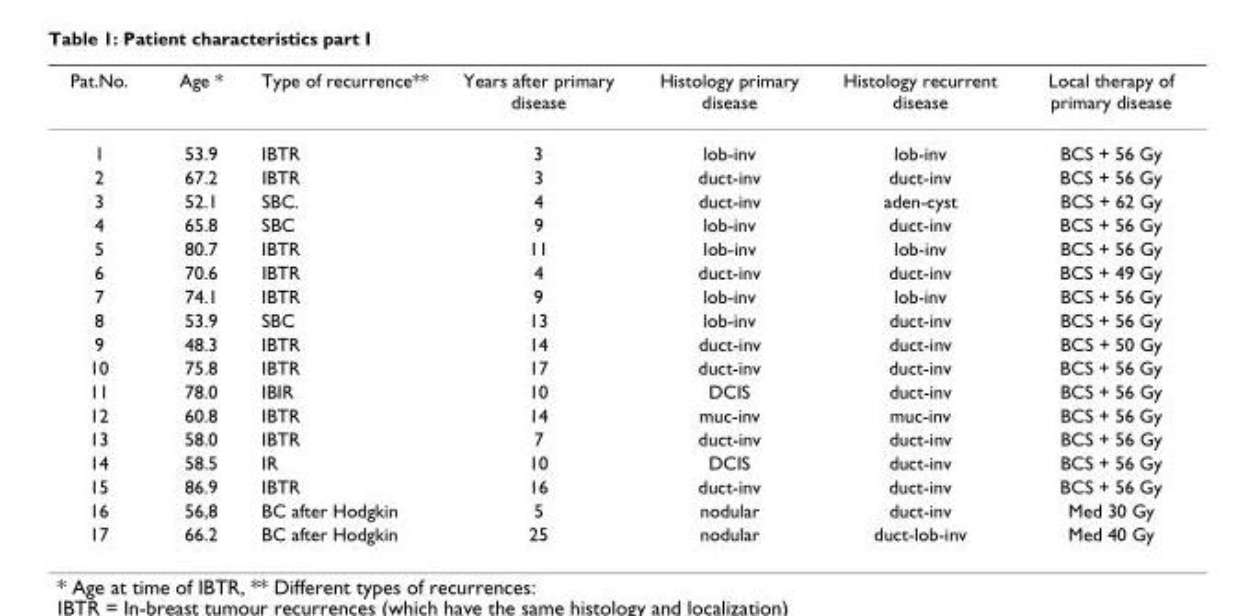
<table><thead><tr><td>Pat.No.</td><td>Age *</td><td>Type of recurrence**</td><td>Years after primary disease</td><td>Histology primary disease</td><td>Histology recurrent disease</td><td>Local therapy of primary disease</td></tr></thead><tbody><tr><td>1</td><td>53.9</td><td>IBTR</td><td>3</td><td>lob-inv</td><td>lob-inv</td><td>BCS + 56 Gy</td></tr><tr><td>2</td><td>67.2</td><td>IBTR</td><td>3</td><td>duct-inv</td><td>duct-inv</td><td>BCS + 56 Gy</td></tr><tr><td>3</td><td>52.1</td><td>SBC.</td><td>4</td><td>duct-inv</td><td>aden-cyst</td><td>BCS + 62 Gy</td></tr><tr><td>4</td><td>65.8</td><td>SBC</td><td>9</td><td>lob-inv</td><td>duct-inv</td><td>BCS + 56 Gy</td></tr><tr><td>5</td><td>80.7</td><td>IBTR</td><td>11</td><td>lob-inv</td><td>lob-inv</td><td>BCS + 56 Gy</td></tr><tr><td>6</td><td>70.6</td><td>IBTR</td><td>4</td><td>duct-inv</td><td>duct-inv</td><td>BCS + 49 Gy</td></tr><tr><td>7</td><td>74.1</td><td>IBTR</td><td>9</td><td>lob-inv</td><td>lob-inv</td><td>BCS + 56 Gy</td></tr><tr><td>8</td><td>53.9</td><td>SBC</td><td>13</td><td>lob-inv</td><td>duct-inv</td><td>BCS + 56 Gy</td></tr><tr><td>9</td><td>48.3</td><td>IBTR</td><td>14</td><td>duct-inv</td><td>duct-inv</td><td>BCS + 50 Gy</td></tr><tr><td>10</td><td>75.8</td><td>IBTR</td><td>17</td><td>duct-inv</td><td>duct-inv</td><td>BCS + 56 Gy</td></tr><tr><td>11</td><td>78.0</td><td>IBIR</td><td>10</td><td>DCIS</td><td>duct-inv</td><td>BCS + 56 Gy</td></tr><tr><td>12</td><td>60.8</td><td>IBTR</td><td>14</td><td>muc-inv</td><td>muc-inv</td><td>BCS + 56 Gy</td></tr><tr><td>13</td><td>58.0</td><td>IBTR</td><td>7</td><td>duct-inv</td><td>duct-inv</td><td>BCS + 56 Gy</td></tr><tr><td>14</td><td>58.5</td><td>IR</td><td>10</td><td>DCIS</td><td>duct-inv</td><td>BCS + 56 Gy</td></tr><tr><td>15</td><td>86.9</td><td>IBTR</td><td>16</td><td>duct-inv</td><td>duct-inv</td><td>BCS + 56 Gy</td></tr><tr><td>16</td><td>56,8</td><td>BC after Hodgkin</td><td>5</td><td>nodular</td><td>duct-inv</td><td>Med 30 Gy</td></tr><tr><td>17</td><td>66.2</td><td>BC after Hodgkin</td><td>25</td><td>nodular</td><td>duct-lob-inv</td><td>Med 40 Gy</td></tr></tbody></table>